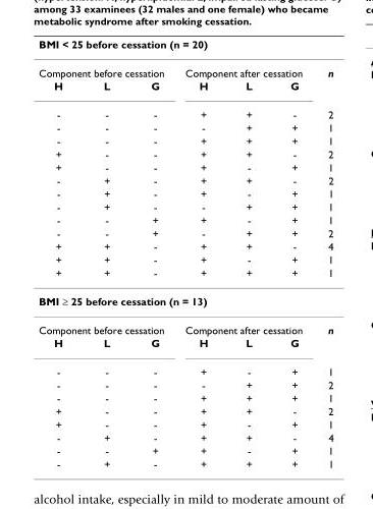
<table><thead><tr><td colspan="7">BMI &lt; 25 before cessation (n = 20)</td></tr><tr><td colspan="3">Component before cessation</td><td colspan="3">Component after cessation</td><td rowspan="2">n</td></tr><tr><td>H</td><td>L</td><td>G</td><td>H</td><td>L</td><td>G</td></tr></thead><tbody><tr><td>-</td><td>-</td><td>-</td><td>+</td><td>+</td><td>-</td><td>2</td></tr><tr><td>-</td><td>-</td><td>-</td><td>-</td><td>+</td><td>+</td><td>1</td></tr><tr><td>-</td><td>-</td><td>-</td><td>+</td><td>+</td><td>+</td><td>1</td></tr><tr><td>+</td><td>-</td><td>-</td><td>+</td><td>+</td><td>-</td><td>2</td></tr><tr><td>+</td><td>-</td><td>-</td><td>+</td><td>-</td><td>+</td><td>1</td></tr><tr><td>-</td><td>+</td><td>-</td><td>+</td><td>+</td><td>-</td><td>2</td></tr><tr><td>-</td><td>+</td><td>-</td><td>+</td><td>-</td><td>+</td><td>1</td></tr><tr><td>-</td><td>+</td><td>-</td><td>-</td><td>+</td><td>+</td><td>1</td></tr><tr><td>-</td><td>-</td><td>+</td><td>+</td><td>-</td><td>+</td><td>1</td></tr><tr><td>-</td><td>-</td><td>+</td><td>-</td><td>+</td><td>+</td><td>2</td></tr><tr><td>+</td><td>+</td><td>-</td><td>+</td><td>+</td><td>-</td><td>4</td></tr><tr><td>+</td><td>+</td><td>-</td><td>+</td><td>-</td><td>+</td><td>1</td></tr><tr><td>+</td><td>+</td><td>-</td><td>+</td><td>+</td><td>+</td><td>1</td></tr><tr><td colspan="7">BMI ≥ 25 before cessation (n = 13)</td></tr><tr><td colspan="3">Component before cessation</td><td colspan="3">Component after cessation</td><td>n</td></tr><tr><td>H</td><td>L</td><td>G</td><td>H</td><td>L</td><td>G</td><td></td></tr><tr><td>-</td><td>-</td><td>-</td><td>+</td><td>-</td><td>+</td><td>1</td></tr><tr><td>-</td><td>-</td><td>-</td><td>-</td><td>+</td><td>+</td><td>2</td></tr><tr><td>-</td><td>-</td><td>-</td><td>+</td><td>+</td><td>+</td><td>1</td></tr><tr><td>+</td><td>-</td><td>-</td><td>+</td><td>+</td><td>-</td><td>2</td></tr><tr><td>+</td><td>-</td><td>-</td><td>+</td><td>-</td><td>+</td><td>1</td></tr><tr><td>-</td><td>+</td><td>-</td><td>+</td><td>+</td><td>-</td><td>4</td></tr><tr><td>-</td><td>-</td><td>+</td><td>+</td><td>-</td><td>+</td><td>1</td></tr><tr><td>-</td><td>+</td><td>-</td><td>+</td><td>+</td><td>+</td><td>1</td></tr></tbody></table>